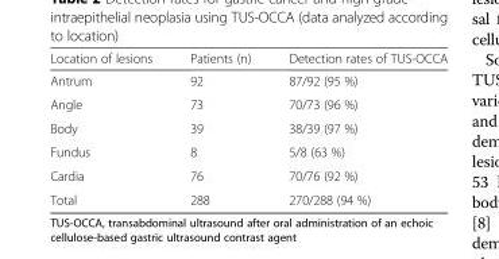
<table><thead><tr><td>Location of lesions</td><td>Patients (n)</td><td>Detection rates of TUS-OCCA</td></tr></thead><tbody><tr><td>Antrum</td><td>92</td><td>87/92 (95 %)</td></tr><tr><td>Angle</td><td>73</td><td>70/73 (96 %)</td></tr><tr><td>Body</td><td>39</td><td>38/39 (97 %)</td></tr><tr><td>Fundus</td><td>8</td><td>5/8 (63 %)</td></tr><tr><td>Cardia</td><td>76</td><td>70/76 (92 %)</td></tr><tr><td>Total</td><td>288</td><td>270/288 (94 %)</td></tr></tbody></table>